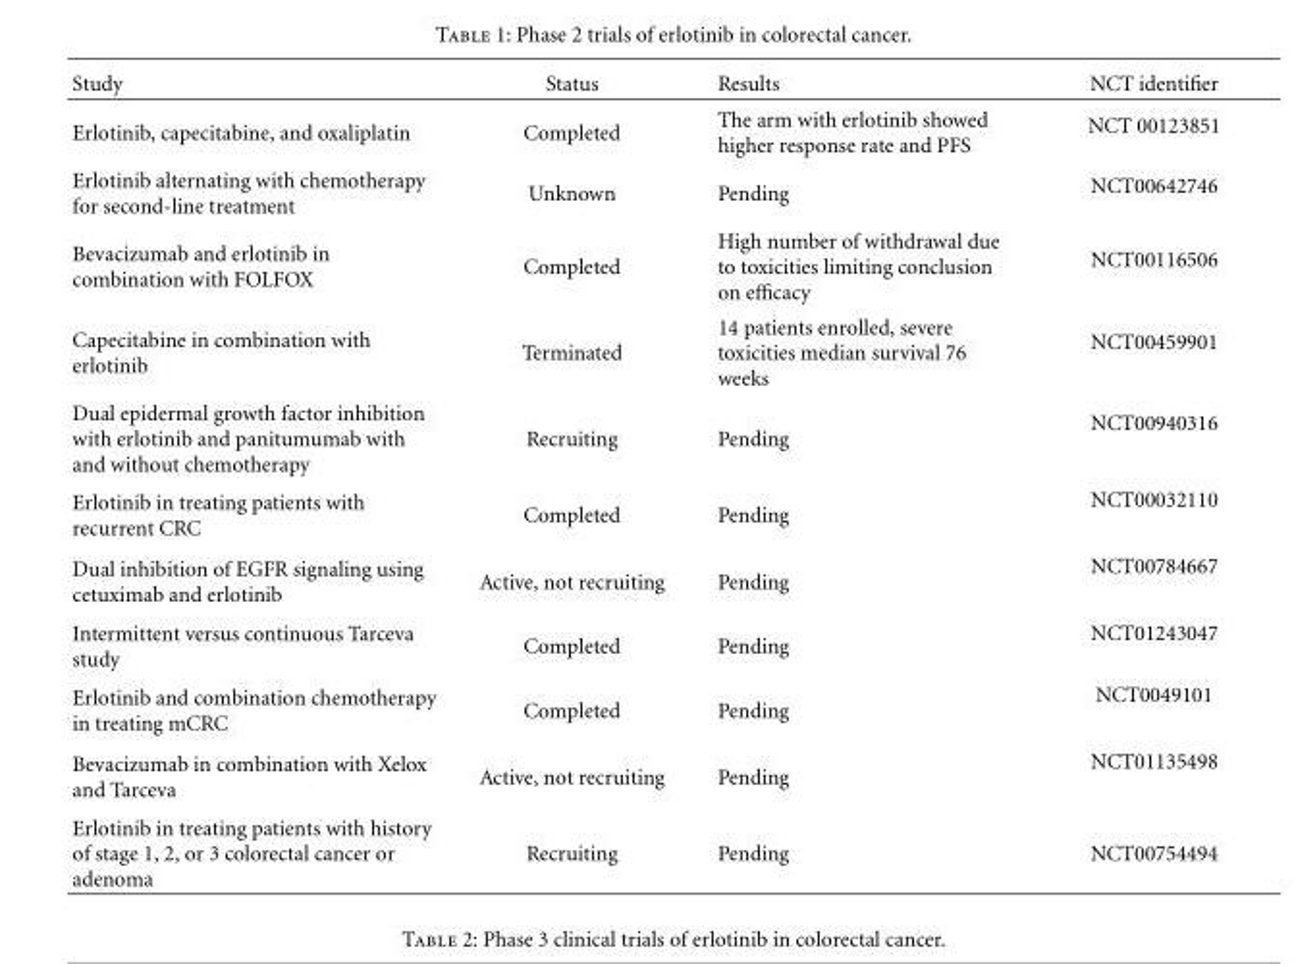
<table><thead><tr><td>Study</td><td>Status</td><td>Results</td><td>NCT identifier</td></tr></thead><tbody><tr><td>Erlotinib, capecitabine, and oxaliplatin</td><td>Completed</td><td>The arm with erlotinib showed higher response rate and PFS</td><td>NCT 00123851</td></tr><tr><td>Erlotinib alternating with chemotherapy for second-line treatment</td><td>Unknown</td><td>Pending</td><td>NCT00642746</td></tr><tr><td>Bevacizumab and erlotinib in combination with FOLFOX</td><td>Completed</td><td>High number of withdrawal due to toxicities limiting conclusion on efficacy</td><td>NCT00116506</td></tr><tr><td>Capecitabine in combination with erlotinib</td><td>Terminated</td><td>14 patients enrolled, severe toxicities median survival 76 weeks</td><td>NCT00459901</td></tr><tr><td>Dual epidermal growth factor inhibition with erlotinib and panitumumab with and without chemotherapy</td><td>Recruiting</td><td>Pending</td><td>NCT00940316</td></tr><tr><td>Erlotinib in treating patients with recurrent CRC</td><td>Completed</td><td>Pending</td><td>NCT00032110</td></tr><tr><td>Dual inhibition of EGFR signaling using cetuximab and erlotinib</td><td>Active, not recruiting</td><td>Pending</td><td>NCT00784667</td></tr><tr><td>Intermittent versus continuous Tarceva study</td><td>Completed</td><td>Pending</td><td>NCT01243047</td></tr><tr><td>Erlotinib and combination chemotherapy in treating mCRC</td><td>Completed</td><td>Pending</td><td>NCT0049101</td></tr><tr><td>Bevacizumab in combination with Xelox and Tarceva</td><td>Active, not recruiting</td><td>Pending</td><td>NCT01135498</td></tr><tr><td>Erlotinib in treating patients with history of stage 1, 2, or 3 colorectal cancer or adenoma</td><td>Recruiting</td><td>Pending</td><td>NCT00754494</td></tr></tbody></table>